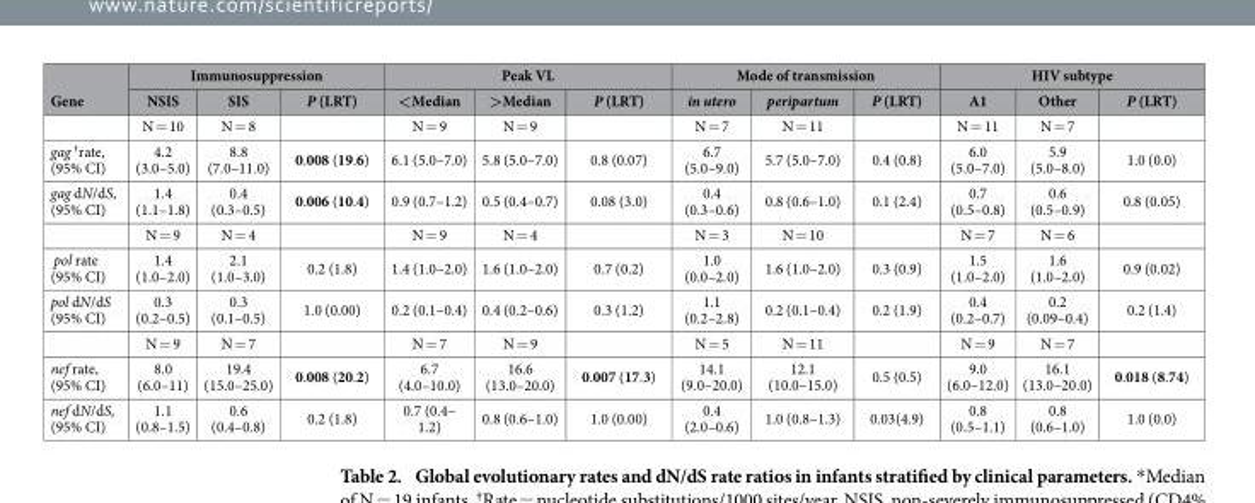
<table><thead><tr><td rowspan="2">Gene</td><td colspan="3">Immunosuppression</td><td colspan="3">Peak VL</td><td colspan="3">Mode of transmission</td><td colspan="3">HIV subtype</td></tr><tr><td>NSIS</td><td>SIS</td><td>P (LRT)</td><td>&lt; Median</td><td>&gt; Median</td><td>P (LRT)</td><td>in utero</td><td>peripartum</td><td>P (LRT)</td><td>A1</td><td>Other</td><td>P (LRT)</td></tr></thead><tbody><tr><td></td><td>N = 10</td><td>N = 8</td><td></td><td>N = 9</td><td>N = 9</td><td></td><td>N = 7</td><td>N = 11</td><td></td><td>N = 11</td><td>N = 7</td><td></td></tr><tr><td>gag †rate, (95% CI)</td><td>4.2 (3.0–5.0)</td><td>8.8 (7.0–11.0)</td><td>0.008 (19.6)</td><td>6.1 (5.0–7.0)</td><td>5.8 (5.0–7.0)</td><td>0.8 (0.07)</td><td>6.7 (5.0–9.0)</td><td>5.7 (5.0–7.0)</td><td>0.4 (0.8)</td><td>6.0 (5.0–7.0)</td><td>5.9 (5.0–8.0)</td><td>1.0 (0.0)</td></tr><tr><td rowspan="2">gag dN/dS, (95% CI)</td><td>1.4 (1.1–1.8)</td><td>0.4 (0.3–0.5)</td><td>0.006 (10.4)</td><td>0.9 (0.7–1.2)</td><td>0.5 (0.4–0.7)</td><td>0.08 (3.0)</td><td>0.4 (0.3–0.6)</td><td>0.8 (0.6–1.0)</td><td>0.1 (2.4)</td><td>0.7 (0.5–0.8)</td><td>0.6 (0.5–0.9)</td><td>0.8 (0.05)</td></tr><tr><td>N = 9</td><td>N = 4</td><td></td><td>N = 9</td><td>N = 4</td><td></td><td>N = 3</td><td>N = 10</td><td></td><td>N = 7</td><td>N = 6</td><td></td></tr><tr><td>pol rate (95% CI)</td><td>1.4 (1.0–2.0)</td><td>2.1 (1.0–3.0)</td><td>0.2 (1.8)</td><td>1.4 (1.0–2.0)</td><td>1.6 (1.0–2.0)</td><td>0.7 (0.2)</td><td>1.0 (0.0–2.0)</td><td>1.6 (1.0–2.0)</td><td>0.3 (0.9)</td><td>1.5 (1.0–2.0)</td><td>1.6 (1.0–2.0)</td><td>0.9 (0.02)</td></tr><tr><td rowspan="2">pol dN/dS (95% CI)</td><td>0.3 (0.2–0.5)</td><td>0.3 (0.1–0.5)</td><td>1.0 (0.00)</td><td>0.2 (0.1–0.4)</td><td>0.4 (0.2–0.6)</td><td>0.3 (1.2)</td><td>1.1 (0.2–2.8)</td><td>0.2 (0.1–0.4)</td><td>0.2 (1.9)</td><td>0.4 (0.2–0.7)</td><td>0.2 (0.09–0.4)</td><td>0.2 (1.4)</td></tr><tr><td>N = 9</td><td>N = 7</td><td></td><td>N = 7</td><td>N = 9</td><td></td><td>N = 5</td><td>N = 11</td><td></td><td>N = 9</td><td>N = 7</td><td></td></tr><tr><td>nef rate, (95% CI)</td><td>8.0 (6.0–11)</td><td>19.4 (15.0–25.0)</td><td>0.008 (20.2)</td><td>6.7 (4.0–10.0)</td><td>16.6 (13.0–20.0)</td><td>0.007 (17.3)</td><td>14.1 (9.0–20.0)</td><td>12.1 (10.0–15.0)</td><td>0.5 (0.5)</td><td>9.0 (6.0–12.0)</td><td>16.1 (13.0–20.0)</td><td>0.018 (8.74)</td></tr><tr><td>nef dN/dS, (95% CI)</td><td>1.1 (0.8–1.5)</td><td>0.6 (0.4–0.8)</td><td>0.2 (1.8)</td><td>0.7 (0.4– 1.2)</td><td>0.8 (0.6–1.0)</td><td>1.0 (0.00)</td><td>0.4 (2.0–0.6)</td><td>1.0 (0.8–1.3)</td><td>0.03(4.9)</td><td>0.8 (0.5–1.1)</td><td>0.8 (0.6–1.0)</td><td>1.0 (0.0)</td></tr></tbody></table>